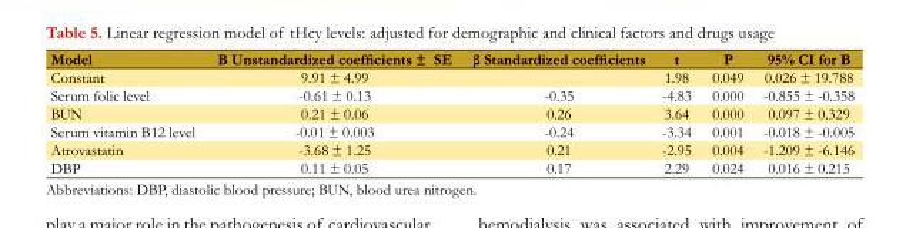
<table><tbody><tr><td>Model</td><td>B Unstandardized coefficients ± SE</td><td>β Standardized coefficients</td><td>t</td><td>P</td><td>95% CI for B</td></tr><tr><td>Constant</td><td>9.91 ± 4.99</td><td></td><td>1.98</td><td>0.049</td><td>0.026 ± 19.788</td></tr><tr><td>Serum folic level</td><td>-0.61 ± 0.13</td><td>-0.35</td><td>-4.83</td><td>0.000</td><td>-0.855 ± -0.358</td></tr><tr><td>BUN</td><td>0.21 ± 0.06</td><td>0.26</td><td>3.64</td><td>0.000</td><td>0.097 ± 0.329</td></tr><tr><td>Serum vitamin B12 level</td><td>-0.01 ± 0.003</td><td>-0.24</td><td>-3.34</td><td>0.001</td><td>-0.018 ± -0.005</td></tr><tr><td>Atrovastatin</td><td>-3.68 ± 1.25</td><td>0.21</td><td>-2.95</td><td>0.004</td><td>-1.209 ± -6.146</td></tr><tr><td>DBP</td><td>0.11 ± 0.05</td><td>0.17</td><td>2.29</td><td>0.024</td><td>0.016 ± 0.215</td></tr></tbody></table>